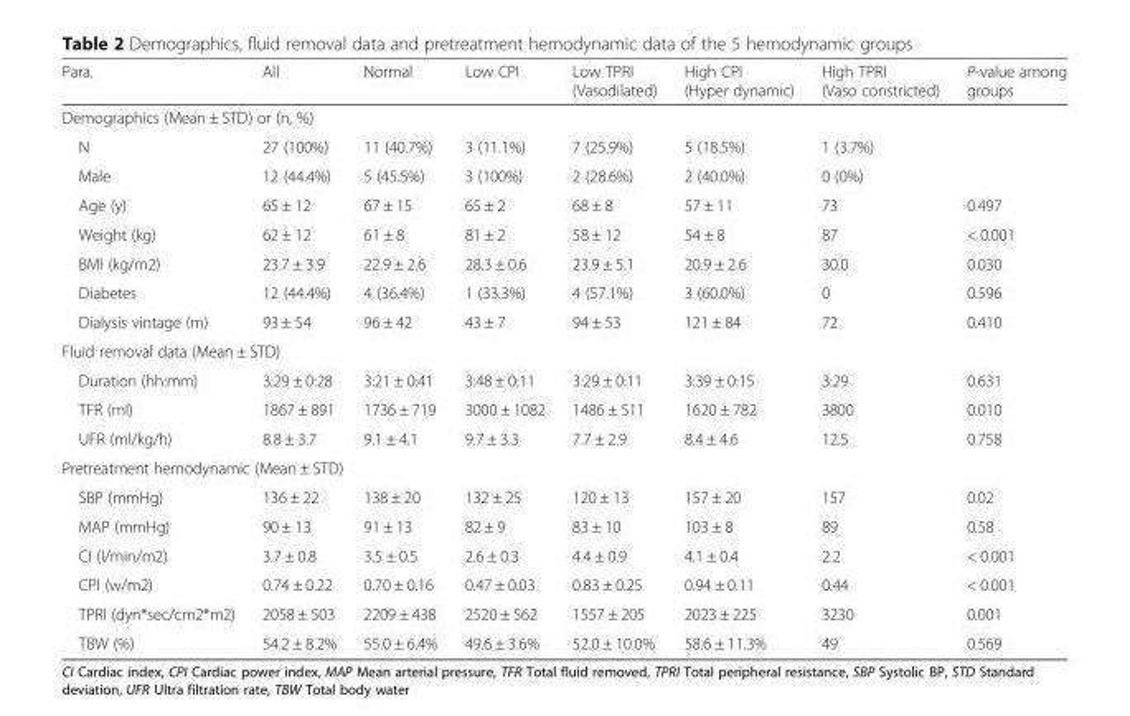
<table><thead><tr><td>Para.</td><td>All</td><td>Normal</td><td>Low CPI</td><td>Low TPRI (Vasodilated)</td><td>High CPI (Hyper dynamic)</td><td>High TPRI (Vaso constricted)</td><td>P-value among groups</td></tr></thead><tbody><tr><td colspan="8">Demographics (Mean ± STD) or (n, %)</td></tr><tr><td>N</td><td>27 (100%)</td><td>11 (40.7%)</td><td>3 (11.1%)</td><td>7 (25.9%)</td><td>5 (18.5%)</td><td>1 (3.7%)</td><td></td></tr><tr><td>Male</td><td>12 (44.4%)</td><td>5 (45.5%)</td><td>3 (100%)</td><td>2 (28.6%)</td><td>2 (40.0%)</td><td>0 (0%)</td><td></td></tr><tr><td>Age (y)</td><td>65 ± 12</td><td>67 ± 15</td><td>65 ± 2</td><td>68 ± 8</td><td>57 ± 11</td><td>73</td><td>0.497</td></tr><tr><td>Weight (kg)</td><td>62 ± 12</td><td>61 ± 8</td><td>81 ± 2</td><td>58 ± 12</td><td>54 ± 8</td><td>87</td><td>&lt; 0.001</td></tr><tr><td>BMI (kg/m2)</td><td>23.7 ± 3.9</td><td>22.9 ± 2.6</td><td>28.3 ± 0.6</td><td>23.9 ± 5.1</td><td>20.9 ± 2.6</td><td>30.0</td><td>0.030</td></tr><tr><td>Diabetes</td><td>12 (44.4%)</td><td>4 (36.4%)</td><td>1 (33.3%)</td><td>4 (57.1%)</td><td>3 (60.0%)</td><td>0</td><td>0.596</td></tr><tr><td>Dialysis vintage (m)</td><td>93 ± 54</td><td>96 ± 42</td><td>43 ± 7</td><td>94 ± 53</td><td>121 ± 84</td><td>72</td><td>0.410</td></tr><tr><td colspan="8">Fluid removal data (Mean ± STD)</td></tr><tr><td>Duration (hh:mm)</td><td>3:29 ± 0:28</td><td>3:21 ± 0:41</td><td>3:48 ± 0:11</td><td>3:29 ± 0:11</td><td>3:39 ± 0:15</td><td>3:29</td><td>0.631</td></tr><tr><td>TFR (ml)</td><td>1867 ± 891</td><td>1736 ± 719</td><td>3000 ± 1082</td><td>1486 ± 511</td><td>1620 ± 782</td><td>3800</td><td>0.010</td></tr><tr><td>UFR (ml/kg/h)</td><td>8.8 ± 3.7</td><td>9.1 ± 4.1</td><td>9.7 ± 3.3</td><td>7.7 ± 2.9</td><td>8.4 ± 4.6</td><td>12.5</td><td>0.758</td></tr><tr><td colspan="8">Pretreatment hemodynamic (Mean ± STD)</td></tr><tr><td>SBP (mmHg)</td><td>136 ± 22</td><td>138 ± 20</td><td>132 ± 25</td><td>120 ± 13</td><td>157 ± 20</td><td>157</td><td>0.02</td></tr><tr><td>MAP (mmHg)</td><td>90 ± 13</td><td>91 ± 13</td><td>82 ± 9</td><td>83 ± 10</td><td>103 ± 8</td><td>89</td><td>0.58</td></tr><tr><td>CI (l/min/m2)</td><td>3.7 ± 0.8</td><td>3.5 ± 0.5</td><td>2.6 ± 0.3</td><td>4.4 ± 0.9</td><td>4.1 ± 0.4</td><td>2.2</td><td>&lt; 0.001</td></tr><tr><td>CPI (w/m2)</td><td>0.74 ± 0.22</td><td>0.70 ± 0.16</td><td>0.47 ± 0.03</td><td>0.83 ± 0.25</td><td>0.94 ± 0.11</td><td>0.44</td><td>&lt; 0.001</td></tr><tr><td>TPRI (dyn*sec/cm2*m2)</td><td>2058 ± 503</td><td>2209 ± 438</td><td>2520 ± 562</td><td>1557 ± 205</td><td>2023 ± 225</td><td>3230</td><td>0.001</td></tr><tr><td>TBW (%)</td><td>54.2 ± 8.2%</td><td>55.0 ± 6.4%</td><td>49.6 ± 3.6%</td><td>52.0 ± 10.0%</td><td>58.6 ± 11.3%</td><td>49</td><td>0.569</td></tr></tbody></table>